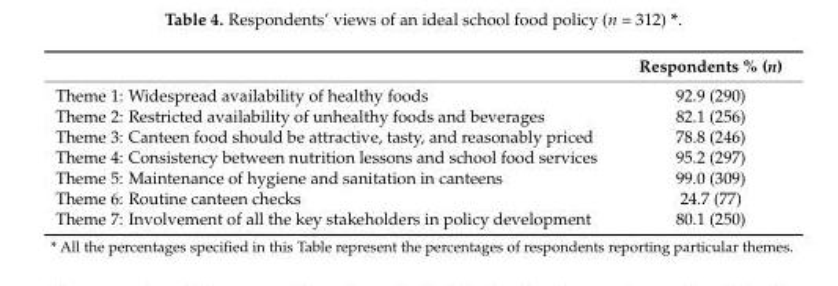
<table><thead><tr><td></td><td>Respondents % (n)</td></tr></thead><tbody><tr><td>Theme 1: Widespread availability of healthy foods</td><td>92.9 (290)</td></tr><tr><td>Theme 2: Restricted availability of unhealthy foods and beverages</td><td>82.1 (256)</td></tr><tr><td>Theme 3: Canteen food should be attractive, tasty, and reasonably priced</td><td>78.8 (246)</td></tr><tr><td>Theme 4: Consistency between nutrition lessons and school food services</td><td>95.2 (297)</td></tr><tr><td>Theme 5: Maintenance of hygiene and sanitation in canteens</td><td>99.0 (309)</td></tr><tr><td>Theme 6: Routine canteen checks</td><td>24.7 (77)</td></tr><tr><td>Theme 7: Involvement of all the key stakeholders in policy development</td><td>80.1 (250)</td></tr></tbody></table>